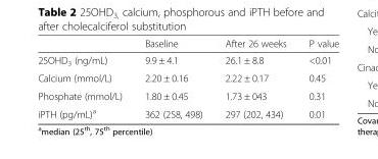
<table><thead><tr><td></td><td>Baseline</td><td>After 26 weeks</td><td>P value</td></tr></thead><tbody><tr><td>25OHD<sub>3</sub> (ng/mL)</td><td>9.9 ± 4.1</td><td>26.1 ± 8.8</td><td>&lt;0.01</td></tr><tr><td>Calcium (mmol/L)</td><td>2.20 ± 0.16</td><td>2.22 ± 0.17</td><td>0.45</td></tr><tr><td>Phosphate (mmol/L)</td><td>1.80 ± 0.45</td><td>1.73 ± 043</td><td>0.31</td></tr><tr><td>iPTH (pg/mL)<sup>a</sup></td><td>362 (258, 498)</td><td>297 (202, 434)</td><td>0.01</td></tr></tbody></table>